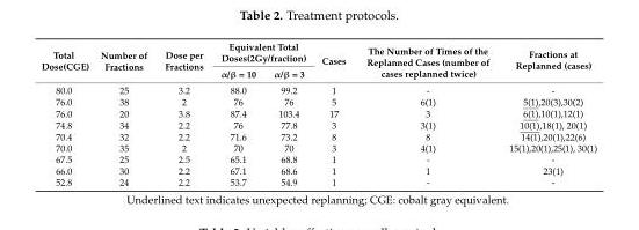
<table><thead><tr><td rowspan="2">Total Dose(CGE)</td><td rowspan="2">Number of Fractions</td><td rowspan="2">Dose per Fractions</td><td colspan="2">Equivalent Total Doses(2Gy/fraction)</td><td rowspan="2">Cases</td><td rowspan="2">The Number of Times of the Replanned Cases (number of cases replanned twice)</td><td rowspan="2">Fractions at Replanned (cases)</td></tr><tr><td>α/β = 10</td><td>α/β = 3</td></tr></thead><tbody><tr><td>80.0</td><td>25</td><td>3.2</td><td>88.0</td><td>99.2</td><td>1</td><td>-</td><td>-</td></tr><tr><td>76.0</td><td>38</td><td>2</td><td>76</td><td>76</td><td>5</td><td>6(1)</td><td>5(1),20(3),30(2)</td></tr><tr><td>76.0</td><td>20</td><td>3.8</td><td>87.4</td><td>103.4</td><td>17</td><td>3</td><td>6(1),10(1),12(1)</td></tr><tr><td>74.8</td><td>34</td><td>2.2</td><td>76</td><td>77.8</td><td>3</td><td>3(1)</td><td>10(1),18(1), 20(1)</td></tr><tr><td>70.4</td><td>32</td><td>2.2</td><td>71.6</td><td>73.2</td><td>8</td><td>8</td><td>14(1),20(1),22(6)</td></tr><tr><td>70.0</td><td>35</td><td>2</td><td>70</td><td>70</td><td>3</td><td>4(1)</td><td>15(1),20(1),25(1), 30(1)</td></tr><tr><td>67.5</td><td>25</td><td>2.5</td><td>65.1</td><td>68.8</td><td>1</td><td>-</td><td>-</td></tr><tr><td>66.0</td><td>30</td><td>2.2</td><td>67.1</td><td>68.6</td><td>1</td><td>1</td><td>23(1)</td></tr><tr><td>52.8</td><td>24</td><td>2.2</td><td>53.7</td><td>54.9</td><td>1</td><td>-</td><td>-</td></tr></tbody></table>